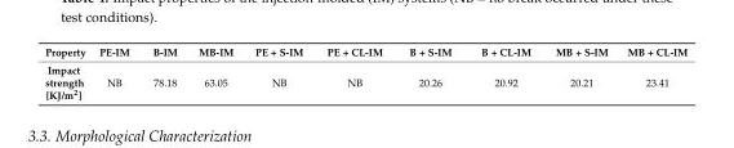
<table><thead><tr><td>Property</td><td>PE-IM</td><td>B-IM</td><td>MB-IM</td><td>PE + S-IM</td><td>PE + CL-IM</td><td>B + S-IM</td><td>B + CL-IM</td><td>MB + S-IM</td><td>MB + CL-IM</td></tr></thead><tbody><tr><td>Impact strength [KJ/m<sup>2</sup>]</td><td>NB</td><td>78.18</td><td>63.05</td><td>NB</td><td>NB</td><td>20.26</td><td>20.92</td><td>20.21</td><td>23.41</td></tr></tbody></table>